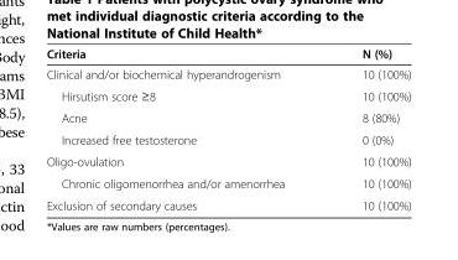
<table><thead><tr><td>Criteria</td><td>N (%)</td></tr></thead><tbody><tr><td>Clinical and/or biochemical hyperandrogenism</td><td>10 (100%)</td></tr><tr><td>Hirsutism score ≥8</td><td>10 (100%)</td></tr><tr><td>Acne</td><td>8 (80%)</td></tr><tr><td>Increased free testosterone</td><td>0 (0%)</td></tr><tr><td>Oligo-ovulation</td><td>10 (100%)</td></tr><tr><td>Chronic oligomenorrhea and/or amenorrhea</td><td>10 (100%)</td></tr><tr><td>Exclusion of secondary causes</td><td>10 (100%)</td></tr></tbody></table>